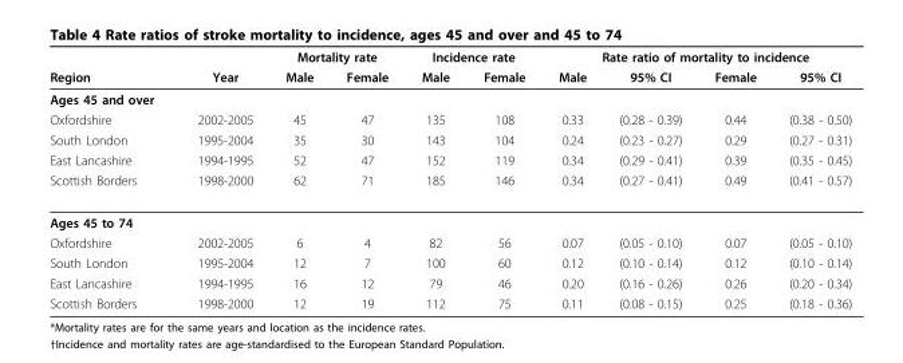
<table><thead><tr><td rowspan="2">Region</td><td rowspan="2">Year</td><td colspan="2">Mortality rate</td><td colspan="2">Incidence rate</td><td colspan="4">Rate ratio of mortality to incidence</td></tr><tr><td>Male</td><td>Female</td><td>Male</td><td>Female</td><td>Male</td><td>95% CI</td><td>Female</td><td>95% CI</td></tr></thead><tbody><tr><td colspan="10">Ages 45 and over</td></tr><tr><td>Oxfordshire</td><td>2002-2005</td><td>45</td><td>47</td><td>135</td><td>108</td><td>0.33</td><td>(0.28 - 0.39)</td><td>0.44</td><td>(0.38 - 0.50)</td></tr><tr><td>South London</td><td>1995-2004</td><td>35</td><td>30</td><td>143</td><td>104</td><td>0.24</td><td>(0.23 - 0.27)</td><td>0.29</td><td>(0.27 - 0.31)</td></tr><tr><td>East Lancashire</td><td>1994-1995</td><td>52</td><td>47</td><td>152</td><td>119</td><td>0.34</td><td>(0.29 - 0.41)</td><td>0.39</td><td>(0.35 - 0.45)</td></tr><tr><td>Scottish Borders</td><td>1998-2000</td><td>62</td><td>71</td><td>185</td><td>146</td><td>0.34</td><td>(0.27 - 0.41)</td><td>0.49</td><td>(0.41 - 0.57)</td></tr><tr><td colspan="10">Ages 45 to 74</td></tr><tr><td>Oxfordshire</td><td>2002-2005</td><td>6</td><td>4</td><td>82</td><td>56</td><td>0.07</td><td>(0.05 - 0.10)</td><td>0.07</td><td>(0.05 - 0.10)</td></tr><tr><td>South London</td><td>1995-2004</td><td>12</td><td>7</td><td>100</td><td>60</td><td>0.12</td><td>(0.10 - 0.14)</td><td>0.12</td><td>(0.10 - 0.14)</td></tr><tr><td>East Lancashire</td><td>1994-1995</td><td>16</td><td>12</td><td>79</td><td>46</td><td>0.20</td><td>(0.16 - 0.26)</td><td>0.26</td><td>(0.20 - 0.34)</td></tr><tr><td>Scottish Borders</td><td>1998-2000</td><td>12</td><td>19</td><td>112</td><td>75</td><td>0.11</td><td>(0.08 - 0.15)</td><td>0.25</td><td>(0.18 - 0.36)</td></tr></tbody></table>